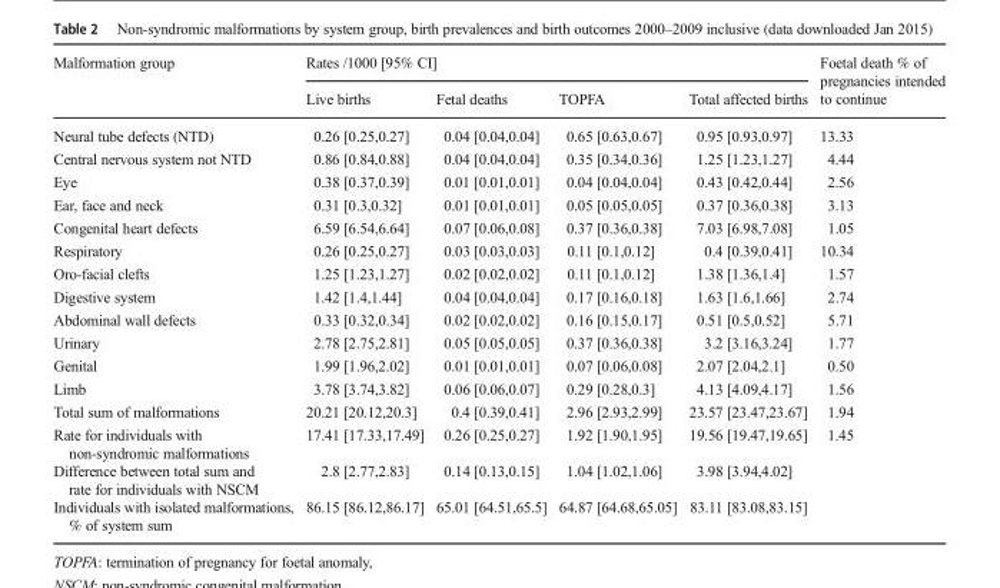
<table><thead><tr><td rowspan="2">Malformation group</td><td colspan="4">Rates /1000 [95% CI]</td><td rowspan="2">Foetal death % of pregnancies intended to continue</td></tr><tr><td>Live births</td><td>Fetal deaths</td><td>TOPFA</td><td>Total affected births</td></tr></thead><tbody><tr><td>Neural tube defects (NTD)</td><td>0.26 [0.25,0.27]</td><td>0.04 [0.04,0.04]</td><td>0.65 [0.63,0.67]</td><td>0.95 [0.93,0.97]</td><td>13.33</td></tr><tr><td>Central nervous system not NTD</td><td>0.86 [0.84,0.88]</td><td>0.04 [0.04,0.04]</td><td>0.35 [0.34,0.36]</td><td>1.25 [1.23,1.27]</td><td>4.44</td></tr><tr><td>Eye</td><td>0.38 [0.37,0.39]</td><td>0.01 [0.01,0.01]</td><td>0.04 [0.04,0.04]</td><td>0.43 [0.42,0.44]</td><td>2.56</td></tr><tr><td>Ear, face and neck</td><td>0.31 [0.3,0.32]</td><td>0.01 [0.01,0.01]</td><td>0.05 [0.05,0.05]</td><td>0.37 [0.36,0.38]</td><td>3.13</td></tr><tr><td>Congenital heart defects</td><td>6.59 [6.54,6.64]</td><td>0.07 [0.06,0.08]</td><td>0.37 [0.36,0.38]</td><td>7.03 [6.98,7.08]</td><td>1.05</td></tr><tr><td>Respiratory</td><td>0.26 [0.25,0.27]</td><td>0.03 [0.03,0.03]</td><td>0.11 [0.1,0.12]</td><td>0.4 [0.39,0.41]</td><td>10.34</td></tr><tr><td>Oro-facial clefts</td><td>1.25 [1.23,1.27]</td><td>0.02 [0.02,0.02]</td><td>0.11 [0.1,0.12]</td><td>1.38 [1.36,1.4]</td><td>1.57</td></tr><tr><td>Digestive system</td><td>1.42 [1.4,1.44]</td><td>0.04 [0.04,0.04]</td><td>0.17 [0.16,0.18]</td><td>1.63 [1.6,1.66]</td><td>2.74</td></tr><tr><td>Abdominal wall defects</td><td>0.33 [0.32,0.34]</td><td>0.02 [0.02,0.02]</td><td>0.16 [0.15,0.17]</td><td>0.51 [0.5,0.52]</td><td>5.71</td></tr><tr><td>Urinary</td><td>2.78 [2.75,2.81]</td><td>0.05 [0.05,0.05]</td><td>0.37 [0.36,0.38]</td><td>3.2 [3.16,3.24]</td><td>1.77</td></tr><tr><td>Genital</td><td>1.99 [1.96,2.02]</td><td>0.01 [0.01,0.01]</td><td>0.07 [0.06,0.08]</td><td>2.07 [2.04,2.1]</td><td>0.50</td></tr><tr><td>Limb</td><td>3.78 [3.74,3.82]</td><td>0.06 [0.06,0.07]</td><td>0.29 [0.28,0.3]</td><td>4.13 [4.09,4.17]</td><td>1.56</td></tr><tr><td>Total sum of malformations</td><td>20.21 [20.12,20.3]</td><td>0.4 [0.39,0.41]</td><td>2.96 [2.93,2.99]</td><td>23.57 [23.47,23.67]</td><td>1.94</td></tr><tr><td>Rate for individuals with non-syndromic malformations</td><td>17.41 [17.33,17.49]</td><td>0.26 [0.25,0.27]</td><td>1.92 [1.90,1.95]</td><td>19.56 [19.47,19.65]</td><td>1.45</td></tr><tr><td>Difference between total sum and rate for individuals with NSCM</td><td>2.8 [2.77,2.83]</td><td>0.14 [0.13,0.15]</td><td>1.04 [1.02,1.06]</td><td>3.98 [3.94,4.02]</td><td></td></tr><tr><td>Individuals with isolated malformations, % of system sum</td><td>86.15 [86.12,86.17]</td><td>65.01 [64.51,65.5]</td><td>64.87 [64.68,65.05]</td><td>83.11 [83.08,83.15]</td><td></td></tr></tbody></table>